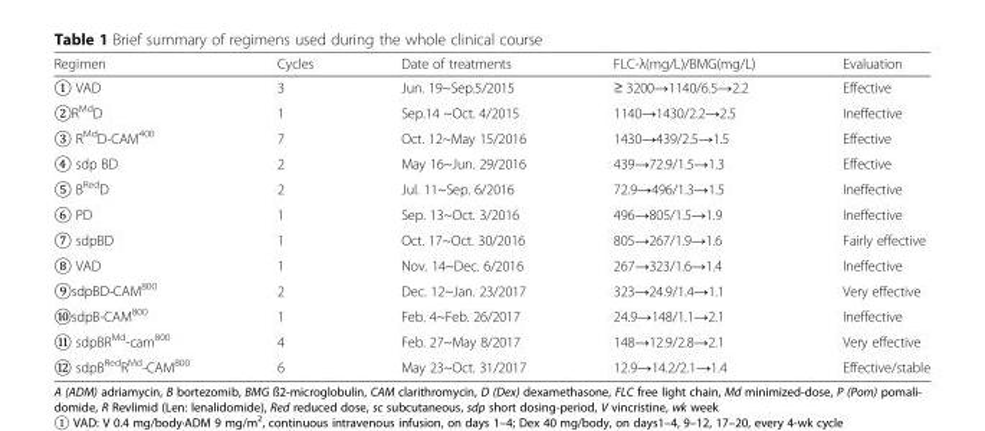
<table><thead><tr><td>Regimen</td><td>Cycles</td><td>Date of treatments</td><td>FLC-λ(mg/L)/BMG(mg/L)</td><td>Evaluation</td></tr></thead><tbody><tr><td>① VAD</td><td>3</td><td>Jun. 19~Sep.5/2015</td><td>≥ 3200→1140/6.5→2.2</td><td>Effective</td></tr><tr><td>②R<sup>Md</sup>D</td><td>1</td><td>Sep.14 ~Oct. 4/2015</td><td>1140→1430/2.2→2.5</td><td>Ineffective</td></tr><tr><td>③ R<sup>Md</sup>D-CAM<sup>400</sup></td><td>7</td><td>Oct. 12~May 15/2016</td><td>1430→439/2.5→1.5</td><td>Effective</td></tr><tr><td>④ sdp BD</td><td>2</td><td>May 16~Jun. 29/2016</td><td>439→72.9/1.5→1.3</td><td>Effective</td></tr><tr><td>⑤ B<sup>Red</sup>D</td><td>2</td><td>Jul. 11~Sep. 6/2016</td><td>72.9→496/1.3→1.5</td><td>Ineffective</td></tr><tr><td>⑥ PD</td><td>1</td><td>Sep. 13~Oct. 3/2016</td><td>496→805/1.5→1.9</td><td>Ineffective</td></tr><tr><td>⑦ sdpBD</td><td>1</td><td>Oct. 17~Oct. 30/2016</td><td>805→267/1.9→1.6</td><td>Fairly effective</td></tr><tr><td>⑧ VAD</td><td>1</td><td>Nov. 14~Dec. 6/2016</td><td>267→323/1.6→1.4</td><td>Ineffective</td></tr><tr><td>⑨sdpBD-CAM<sup>800</sup></td><td>2</td><td>Dec. 12~Jan. 23/2017</td><td>323→24.9/1.4→1.1</td><td>Very effective</td></tr><tr><td>⑩sdpB-CAM<sup>800</sup></td><td>1</td><td>Feb. 4~Feb. 26/2017</td><td>24.9→148/1.1→2.1</td><td>Ineffective</td></tr><tr><td>⑪ sdpBR<sup>Md</sup>-cam<sup>800</sup></td><td>4</td><td>Feb. 27~May 8/2017</td><td>148→12.9/2.8→2.1</td><td>Very effective</td></tr><tr><td>⑫ sdpB<sup>Red</sup>R<sup>Md</sup>-CAM<sup>800</sup></td><td>6</td><td>May 23~Oct. 31/2017</td><td>12.9→14.2/2.1→1.4</td><td>Effective/stable</td></tr></tbody></table>